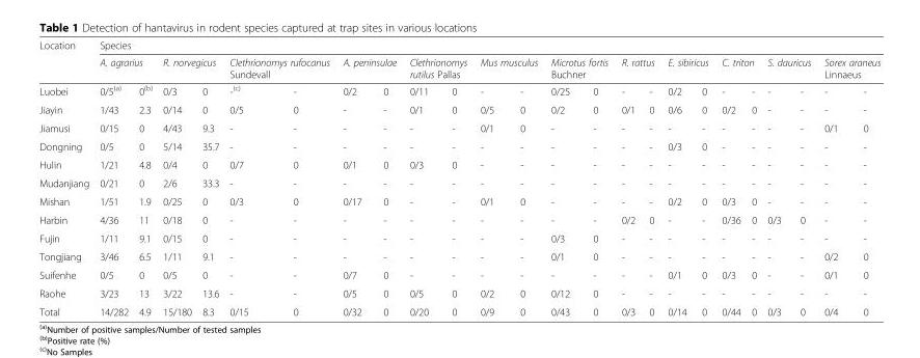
<table><thead><tr><td rowspan="3">Location Luobei</td><td colspan="24">Species</td></tr><tr><td colspan="2">A. agrarius</td><td colspan="2">R. norvegicus</td><td colspan="2">Clethrionomys rufocanus Sundevall</td><td colspan="2">A. peninsulae</td><td colspan="2">Clethrionomys rutilus Pallas</td><td colspan="2">Mus musculus</td><td colspan="2">Microtus fortis Buchner</td><td colspan="2">R. rattus</td><td colspan="2">E. sibiricus</td><td colspan="2">C. triton</td><td colspan="2">S. dauricus</td><td colspan="2">Sorex araneus Linnaeus</td></tr><tr><td>0/5<sup>(a)</sup></td><td>0<sup>(b)</sup></td><td>0/3</td><td>0</td><td>-<sup>(c)</sup></td><td>-</td><td>0/2</td><td>0</td><td>0/11</td><td>0</td><td>-</td><td>-</td><td>0/25</td><td>0</td><td>-</td><td>-</td><td>0/2</td><td>0</td><td>-</td><td>-</td><td>-</td><td>-</td><td>-</td><td>-</td></tr></thead><tbody><tr><td>Jiayin</td><td>1/43</td><td>2.3</td><td>0/14</td><td>0</td><td>0/5</td><td>0</td><td>-</td><td>-</td><td>0/1</td><td>0</td><td>0/5</td><td>0</td><td>0/2</td><td>0</td><td>0/1</td><td>0</td><td>0/6</td><td>0</td><td>0/2</td><td>0</td><td>-</td><td>-</td><td>-</td><td>-</td></tr><tr><td>Jiamusi</td><td>0/15</td><td>0</td><td>4/43</td><td>9.3</td><td>-</td><td>-</td><td>-</td><td>-</td><td>-</td><td>-</td><td>0/1</td><td>0</td><td>-</td><td>-</td><td>-</td><td>-</td><td>-</td><td>-</td><td>-</td><td>-</td><td>-</td><td>-</td><td>0/1</td><td>0</td></tr><tr><td>Dongning</td><td>0/5</td><td>0</td><td>5/14</td><td>35.7</td><td>-</td><td>-</td><td>-</td><td>-</td><td>-</td><td>-</td><td>-</td><td>-</td><td>-</td><td>-</td><td>-</td><td>-</td><td>0/3</td><td>0</td><td>-</td><td>-</td><td>-</td><td>-</td><td>-</td><td>-</td></tr><tr><td>Hulin</td><td>1/21</td><td>4.8</td><td>0/4</td><td>0</td><td>0/7</td><td>0</td><td>0/1</td><td>0</td><td>0/3</td><td>0</td><td>-</td><td>-</td><td>-</td><td>-</td><td>-</td><td>-</td><td>-</td><td>-</td><td>-</td><td>-</td><td>-</td><td>-</td><td>-</td><td>-</td></tr><tr><td>Mudanjiang</td><td>0/21</td><td>0</td><td>2/6</td><td>33.3</td><td>-</td><td>-</td><td>-</td><td>-</td><td>-</td><td>-</td><td>-</td><td>-</td><td>-</td><td>-</td><td>-</td><td>-</td><td>-</td><td>-</td><td>-</td><td>-</td><td>-</td><td>-</td><td>-</td><td>-</td></tr><tr><td>Mishan</td><td>1/51</td><td>1.9</td><td>0/25</td><td>0</td><td>0/3</td><td>0</td><td>0/17</td><td>0</td><td>-</td><td>-</td><td>0/1</td><td>0</td><td>-</td><td>-</td><td>-</td><td>-</td><td>0/2</td><td>0</td><td>0/3</td><td>0</td><td>-</td><td>-</td><td>-</td><td>-</td></tr><tr><td>Harbin</td><td>4/36</td><td>11</td><td>0/18</td><td>0</td><td>-</td><td>-</td><td>-</td><td>-</td><td>-</td><td>-</td><td>-</td><td>-</td><td>-</td><td>-</td><td>0/2</td><td>0</td><td>-</td><td>-</td><td>0/36</td><td>0</td><td>0/3</td><td>0</td><td>-</td><td>-</td></tr><tr><td>Fujin</td><td>1/11</td><td>9.1</td><td>0/15</td><td>0</td><td>-</td><td>-</td><td>-</td><td>-</td><td>-</td><td>-</td><td>-</td><td>-</td><td>0/3</td><td>0</td><td>-</td><td>-</td><td>-</td><td>-</td><td>-</td><td>-</td><td>-</td><td>-</td><td>-</td><td>-</td></tr><tr><td>Tongjiang</td><td>3/46</td><td>6.5</td><td>1/11</td><td>9.1</td><td>-</td><td>-</td><td>-</td><td>-</td><td>-</td><td>-</td><td>-</td><td>-</td><td>0/1</td><td>0</td><td>-</td><td>-</td><td>-</td><td>-</td><td>-</td><td>-</td><td>-</td><td>-</td><td>0/2</td><td>0</td></tr><tr><td>Suifenhe</td><td>0/5</td><td>0</td><td>0/5</td><td>0</td><td>-</td><td>-</td><td>0/7</td><td>0</td><td>-</td><td>-</td><td>-</td><td>-</td><td>-</td><td>-</td><td>-</td><td>-</td><td>0/1</td><td>0</td><td>0/3</td><td>0</td><td>-</td><td>-</td><td>0/1</td><td>0</td></tr><tr><td>Raohe</td><td>3/23</td><td>13</td><td>3/22</td><td>13.6</td><td>-</td><td>-</td><td>0/5</td><td>0</td><td>0/5</td><td>0</td><td>0/2</td><td>0</td><td>0/12</td><td>0</td><td>-</td><td>-</td><td>-</td><td>-</td><td>-</td><td>-</td><td>-</td><td>-</td><td>-</td><td>-</td></tr><tr><td>Total</td><td>14/282</td><td>4.9</td><td>15/180</td><td>8.3</td><td>0/15</td><td>0</td><td>0/32</td><td>0</td><td>0/20</td><td>0</td><td>0/9</td><td>0</td><td>0/43</td><td>0</td><td>0/3</td><td>0</td><td>0/14</td><td>0</td><td>0/44</td><td>0</td><td>0/3</td><td>0</td><td>0/4</td><td>0</td></tr></tbody></table>